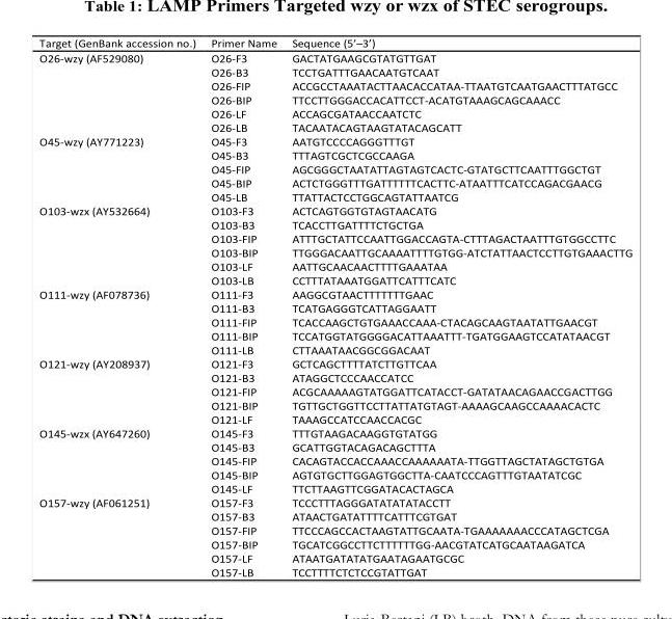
<table><thead><tr><td>Target (GenBank accession no.)</td><td>Primer Name</td><td>Sequence (5’–3’)</td></tr></thead><tbody><tr><td rowspan="6">O26-wzy (AF529080)</td><td>O26-F3</td><td>GACTATGAAGCGTATGTTGAT</td></tr><tr><td>O26-B3</td><td>TCCTGATTTGAACAATGTCAAT</td></tr><tr><td>O26-FIP</td><td>ACCGCCTAAATACTTAACACCATAA-TTAATGTCAATGAACTTTATGCC</td></tr><tr><td>O26-BIP</td><td>TTCCTTGGGACCACATTCCT-ACATGTAAAGCAGCAAACC</td></tr><tr><td>O26-LF</td><td>ACCAGCGATAACCAATCTC</td></tr><tr><td>O26-LB</td><td>TACAATACAGTAAGTATACAGCATT</td></tr><tr><td rowspan="5">O45-wzy (AY771223)</td><td>O45-F3</td><td>AATGTCCCCAGGGTTTGT</td></tr><tr><td>O45-B3</td><td>TTTAGTCGCTCGCCAAGA</td></tr><tr><td>O45-FIP</td><td>AGCGGGCTAATATTAGTAGTCACTC-GTATGCTTCAATTTGGCTGT</td></tr><tr><td>O45-BIP</td><td>ACTCTGGGTTTGATTTTTTCACTTC-ATAATTTCATCCAGACGAACG</td></tr><tr><td>O45-LB</td><td>TTATTACTCCTGGCAGTATTAATCG</td></tr><tr><td rowspan="6">O103-wzx (AY532664)</td><td>O103-F3</td><td>ACTCAGTGGTGTAGTAACATG</td></tr><tr><td>O103-B3</td><td>TCACCTTGATTTTCTGCTGA</td></tr><tr><td>O103-FIP</td><td>ATTTGCTATTCCAATTGGACCAGTA-CTTTAGACTAATTTGTGGCCTTC</td></tr><tr><td>O103-BIP</td><td>TTGGGACAATTGCAAAATTTTGTGG-ATCTATTAACTCCTTGTGAAACTTG</td></tr><tr><td>O103-LF</td><td>AATTGCAACAACTTTTGAAATAA</td></tr><tr><td>O103-LB</td><td>CCTTTATAAATGGATTCATTTCATC</td></tr><tr><td rowspan="5">O111-wzy (AF078736)</td><td>O111-F3</td><td>AAGGCGTAACTTTTTTTGAAC</td></tr><tr><td>O111-B3</td><td>TCATGAGGGTCATTAGGAATT</td></tr><tr><td>O111-FIP</td><td>TCACCAAGCTGTGAAACCAAA-CTACAGCAAGTAATATTGAACGT</td></tr><tr><td>O111-BIP</td><td>TCCATGGTATGGGGACATTAAATTT-TGATGGAAGTCCATATAACGT</td></tr><tr><td>O111-LB</td><td>CTTAAATAACGGCGGACAAT</td></tr><tr><td rowspan="5">O121-wzy (AY208937)</td><td>O121-F3</td><td>GCTCAGCTTTTATCTTGTTCAA</td></tr><tr><td>O121-B3</td><td>ATAGGCTCCCAACCATCC</td></tr><tr><td>O121-FIP</td><td>ACGCAAAAAGTATGGATTCATACCT-GATATAACAGAACCGACTTGG</td></tr><tr><td>O121-BIP</td><td>TGTTGCTGGTTCCTTATTATGTAGT-AAAAGCAAGCCAAAACACTC</td></tr><tr><td>O121-LF</td><td>TAAAGCCATCCAACCACGC</td></tr><tr><td rowspan="5">O145-wzx (AY647260)</td><td>O145-F3</td><td>TTTGTAAGACAAGGTGTATGG</td></tr><tr><td>O145-B3</td><td>GCATTGGTACAGACAGCTTTA</td></tr><tr><td>O145-FIP</td><td>CACAGTACCACCAAACCAAAAAATA-TTGGTTAGCTATAGCTGTGA</td></tr><tr><td>O145-BIP</td><td>AGTGTGCTTGGAGTGGCTTA-CAATCCCAGTTTGTAATATCGC</td></tr><tr><td>O145-LF</td><td>TTCTTAAGTTCGGATACACTAGCA</td></tr><tr><td rowspan="6">O157-wzy (AF061251)</td><td>O157-F3</td><td>TCCCTTTAGGGATATATATACCTT</td></tr><tr><td>O157-B3</td><td>ATAACTGATATTTTCATTTCGTGAT</td></tr><tr><td>O157-FIP</td><td>TTCCCAGCCACTAAGTATTGCAATA-TGAAAAAAACCCATAGCTCGA</td></tr><tr><td>O157-BIP</td><td>TGCATCGGCCTTCTTTTTTGG-AACGTATCATGCAATAAGATCA</td></tr><tr><td>O157-LF</td><td>ATAATGATATATGAATAGAATGCGC</td></tr><tr><td>O157-LB</td><td>TCCTTTTCTCTCCGTATTGAT</td></tr></tbody></table>